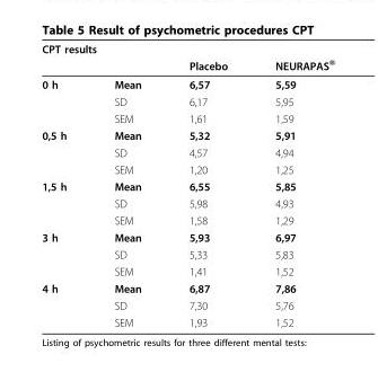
<table><thead><tr><td colspan="4">CPT results</td></tr><tr><td></td><td></td><td>Placebo</td><td>NEURAPAS<sup>®</sup></td></tr></thead><tbody><tr><td rowspan="3">0 h</td><td>Mean</td><td>6,57</td><td>5,59</td></tr><tr><td>SD</td><td>6,17</td><td>5,95</td></tr><tr><td>SEM</td><td>1,61</td><td>1,59</td></tr><tr><td rowspan="3">0,5 h</td><td>Mean</td><td>5,32</td><td>5,91</td></tr><tr><td>SD</td><td>4,57</td><td>4,94</td></tr><tr><td>SEM</td><td>1,20</td><td>1,25</td></tr><tr><td rowspan="3">1,5 h</td><td>Mean</td><td>6,55</td><td>5,85</td></tr><tr><td>SD</td><td>5,98</td><td>4,93</td></tr><tr><td>SEM</td><td>1,58</td><td>1,29</td></tr><tr><td rowspan="3">3 h</td><td>Mean</td><td>5,93</td><td>6,97</td></tr><tr><td>SD</td><td>5,33</td><td>5,83</td></tr><tr><td>SEM</td><td>1,41</td><td>1,52</td></tr><tr><td rowspan="3">4 h</td><td>Mean</td><td>6,87</td><td>7,86</td></tr><tr><td>SD</td><td>7,30</td><td>5,76</td></tr><tr><td>SEM</td><td>1,93</td><td>1,52</td></tr></tbody></table>